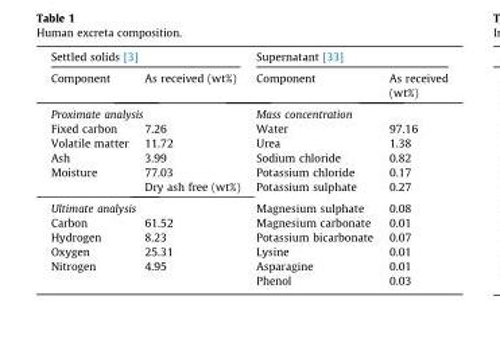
<table><thead><tr><td colspan="2">Settled solids [3]</td><td colspan="2">Supernatant [33]</td></tr><tr><td>Component</td><td>As received (wt%)</td><td>Component</td><td>As received (wt%)</td></tr></thead><tbody><tr><td colspan="2">Proximate analysis</td><td colspan="2">Mass concentration</td></tr><tr><td>Fixed carbon</td><td>7.26</td><td>Water</td><td>97.16</td></tr><tr><td>Volatile matter</td><td>11.72</td><td>Urea</td><td>1.38</td></tr><tr><td>Ash</td><td>3.99</td><td>Sodium chloride</td><td>0.82</td></tr><tr><td rowspan="2">Moisture</td><td>77.03</td><td>Potassium chloride</td><td>0.17</td></tr><tr><td>Dry ash free (wt%)</td><td>Potassium sulphate</td><td>0.27</td></tr><tr><td colspan="2">Ultimate analysis</td><td>Magnesium sulphate</td><td>0.08</td></tr><tr><td>Carbon</td><td>61.52</td><td>Magnesium carbonate</td><td>0.01</td></tr><tr><td>Hydrogen</td><td>8.23</td><td>Potassium bicarbonate</td><td>0.07</td></tr><tr><td>Oxygen</td><td>25.31</td><td>Lysine</td><td>0.01</td></tr><tr><td rowspan="2">Nitrogen</td><td>4.95</td><td>Asparagine</td><td>0.01</td></tr><tr><td></td><td>Phenol</td><td>0.03</td></tr></tbody></table>